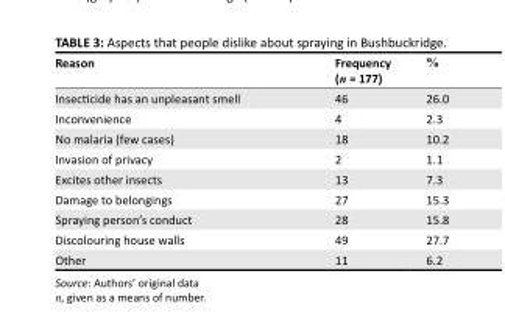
<table><thead><tr><td>Reason</td><td>Frequency (n = 177)</td><td>%</td></tr></thead><tbody><tr><td>Insecticide has an unpleasant smell</td><td>46</td><td>26.0</td></tr><tr><td>Inconvenience</td><td>4</td><td>2.3</td></tr><tr><td>No malaria (few cases)</td><td>18</td><td>10.2</td></tr><tr><td>Invasion of privacy</td><td>2</td><td>1.1</td></tr><tr><td>Excites other insects</td><td>13</td><td>7.3</td></tr><tr><td>Damage to belongings</td><td>27</td><td>15.3</td></tr><tr><td>Spraying person’s conduct</td><td>28</td><td>15.8</td></tr><tr><td>Discolouring house walls</td><td>49</td><td>27.7</td></tr><tr><td>Other</td><td>11</td><td>6.2</td></tr></tbody></table>